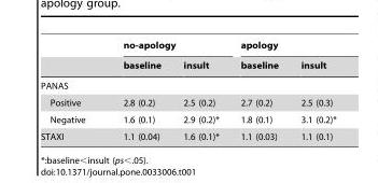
<table><thead><tr><td rowspan="2"></td><td colspan="2">no-apology</td><td colspan="2">apology</td></tr><tr><td>baseline</td><td>insult</td><td>baseline</td><td>insult</td></tr></thead><tbody><tr><td colspan="5">PANAS</td></tr><tr><td>Positive</td><td>2.8 (0.2)</td><td>2.5 (0.2)</td><td>2.7 (0.2)</td><td>2.5 (0.3)</td></tr><tr><td>Negative</td><td>1.6 (0.1)</td><td>2.9 (0.2)*</td><td>1.8 (0.1)</td><td>3.1 (0.2)*</td></tr><tr><td>STAXI</td><td>1.1 (0.04)</td><td>1.6 (0.1)*</td><td>1.1 (0.03)</td><td>1.1 (0.1)</td></tr></tbody></table>